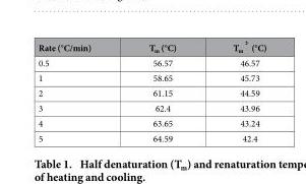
<table><thead><tr><td>Rate (°C/min)</td><td>T<sub>m</sub> (°C)</td><td>Tmʾ (°C)</td></tr></thead><tbody><tr><td>0.5</td><td>56.57</td><td>46.57</td></tr><tr><td>1</td><td>58.65</td><td>45.73</td></tr><tr><td>2</td><td>61.15</td><td>44.59</td></tr><tr><td>3</td><td>62.4</td><td>43.96</td></tr><tr><td>4</td><td>63.65</td><td>43.24</td></tr><tr><td>5</td><td>64.59</td><td>42.4</td></tr></tbody></table>